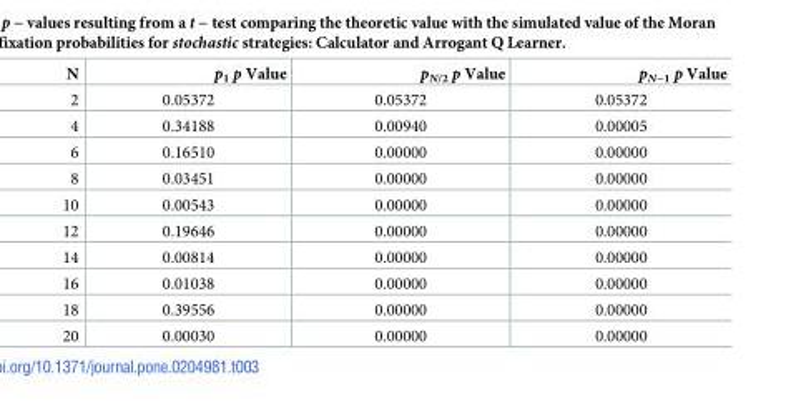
<table><thead><tr><td>N</td><td>p<sub>1</sub> p Value</td><td>p<sub>N/2</sub> p Value</td><td>p<sub>N−1</sub> p Value</td></tr></thead><tbody><tr><td>2</td><td>0.05372</td><td>0.05372</td><td>0.05372</td></tr><tr><td>4</td><td>0.34188</td><td>0.00940</td><td>0.00005</td></tr><tr><td>6</td><td>0.16510</td><td>0.00000</td><td>0.00000</td></tr><tr><td>8</td><td>0.03451</td><td>0.00000</td><td>0.00000</td></tr><tr><td>10</td><td>0.00543</td><td>0.00000</td><td>0.00000</td></tr><tr><td>12</td><td>0.19646</td><td>0.00000</td><td>0.00000</td></tr><tr><td>14</td><td>0.00814</td><td>0.00000</td><td>0.00000</td></tr><tr><td>16</td><td>0.01038</td><td>0.00000</td><td>0.00000</td></tr><tr><td>18</td><td>0.39556</td><td>0.00000</td><td>0.00000</td></tr><tr><td>20</td><td>0.00030</td><td>0.00000</td><td>0.00000</td></tr></tbody></table>